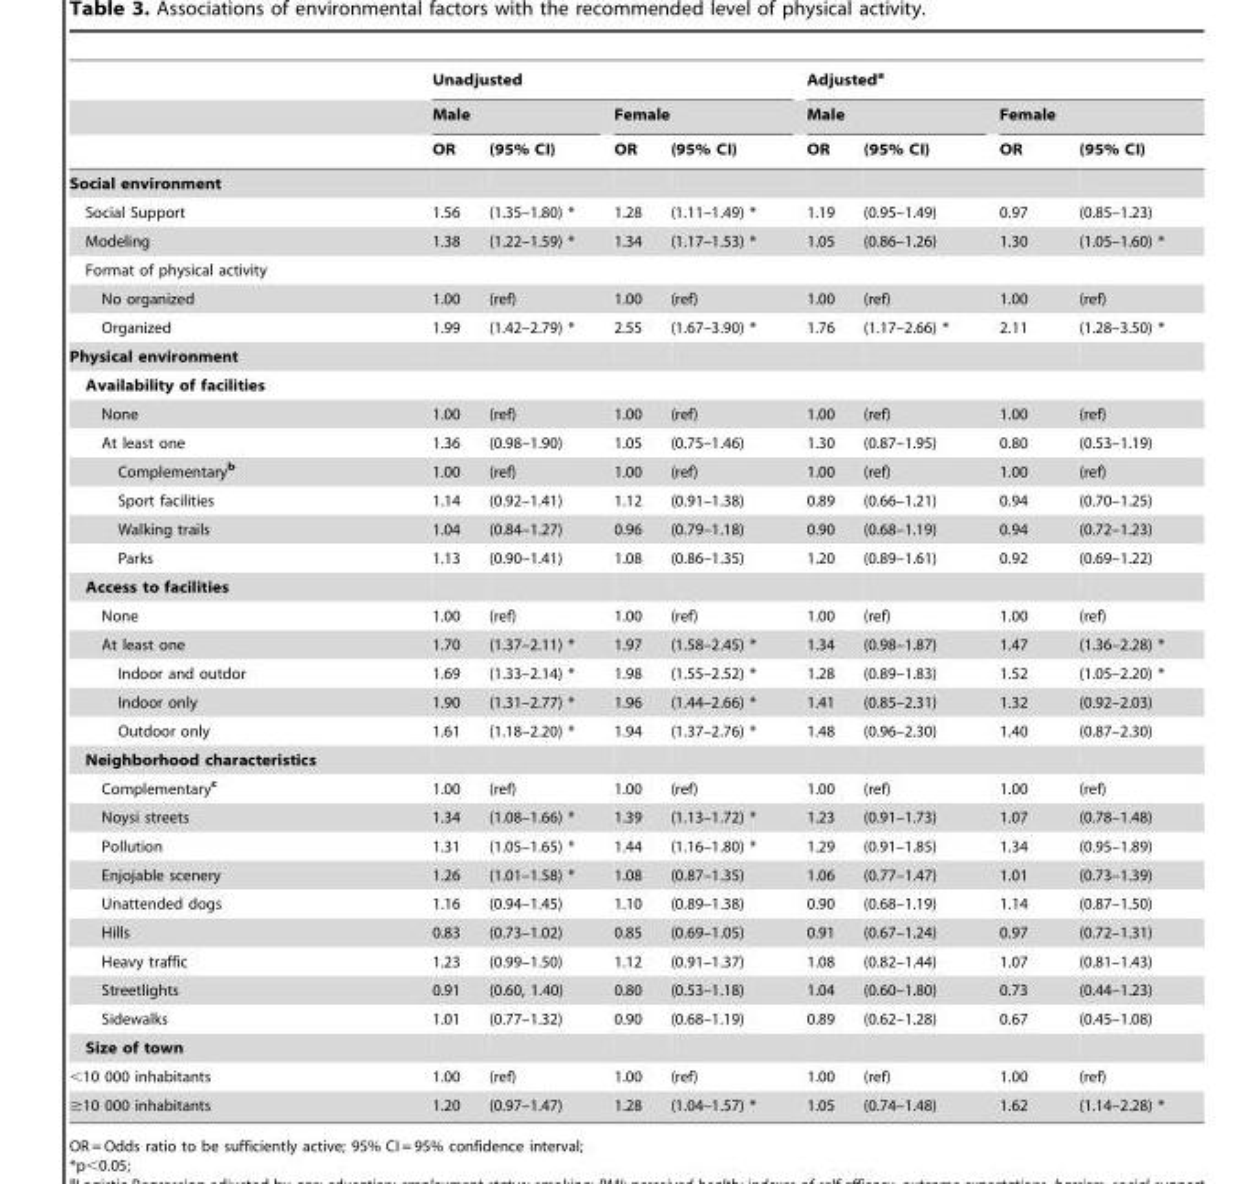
<table><thead><tr><td rowspan="3"></td><td colspan="4">Unadjusted</td><td colspan="4">Adjusted<sup>a</sup></td></tr><tr><td colspan="2">Male</td><td colspan="2">Female</td><td colspan="2">Male</td><td colspan="2">Female</td></tr><tr><td>OR</td><td>(95% CI)</td><td>OR</td><td>(95% CI)</td><td>OR</td><td>(95% CI)</td><td>OR</td><td>(95% CI)</td></tr></thead><tbody><tr><td colspan="9">Social environment</td></tr><tr><td>Social Support</td><td>1.56</td><td>(1.35–1.80) *</td><td>1.28</td><td>(1.11–1.49) *</td><td>1.19</td><td>(0.95–1.49)</td><td>0.97</td><td>(0.85–1.23)</td></tr><tr><td>Modeling</td><td>1.38</td><td>(1.22–1.59) *</td><td>1.34</td><td>(1.17–1.53) *</td><td>1.05</td><td>(0.86–1.26)</td><td>1.30</td><td>(1.05–1.60) *</td></tr><tr><td colspan="9">Format of physical activity</td></tr><tr><td>No organized</td><td>1.00</td><td>(ref)</td><td>1.00</td><td>(ref)</td><td>1.00</td><td>(ref)</td><td>1.00</td><td>(ref)</td></tr><tr><td>Organized</td><td>1.99</td><td>(1.42–2.79) *</td><td>2.55</td><td>(1.67–3.90) *</td><td>1.76</td><td>(1.17–2.66) *</td><td>2.11</td><td>(1.28–3.50) *</td></tr><tr><td colspan="9">Physical environment</td></tr><tr><td colspan="9">Availability of facilities</td></tr><tr><td>None</td><td>1.00</td><td>(ref)</td><td>1.00</td><td>(ref)</td><td>1.00</td><td>(ref)</td><td>1.00</td><td>(ref)</td></tr><tr><td>At least one</td><td>1.36</td><td>(0.98–1.90)</td><td>1.05</td><td>(0.75–1.46)</td><td>1.30</td><td>(0.87–1.95)</td><td>0.80</td><td>(0.53–1.19)</td></tr><tr><td>Complementary<sup>b</sup></td><td>1.00</td><td>(ref)</td><td>1.00</td><td>(ref)</td><td>1.00</td><td>(ref)</td><td>1.00</td><td>(ref)</td></tr><tr><td>Sport facilities</td><td>1.14</td><td>(0.92–1.41)</td><td>1.12</td><td>(0.91–1.38)</td><td>0.89</td><td>(0.66–1.21)</td><td>0.94</td><td>(0.70–1.25)</td></tr><tr><td>Walking trails</td><td>1.04</td><td>(0.84–1.27)</td><td>0.96</td><td>(0.79–1.18)</td><td>0.90</td><td>(0.68–1.19)</td><td>0.94</td><td>(0.72–1.23)</td></tr><tr><td>Parks</td><td>1.13</td><td>(0.90–1.41)</td><td>1.08</td><td>(0.86–1.35)</td><td>1.20</td><td>(0.89–1.61)</td><td>0.92</td><td>(0.69–1.22)</td></tr><tr><td colspan="9">Access to facilities</td></tr><tr><td>None</td><td>1.00</td><td>(ref)</td><td>1.00</td><td>(ref)</td><td>1.00</td><td>(ref)</td><td>1.00</td><td>(ref)</td></tr><tr><td>At least one</td><td>1.70</td><td>(1.37–2.11) *</td><td>1.97</td><td>(1.58–2.45) *</td><td>1.34</td><td>(0.98–1.87)</td><td>1.47</td><td>(1.36–2.28) *</td></tr><tr><td>Indoor and outdor</td><td>1.69</td><td>(1.33–2.14) *</td><td>1.98</td><td>(1.55–2.52) *</td><td>1.28</td><td>(0.89–1.83)</td><td>1.52</td><td>(1.05–2.20) *</td></tr><tr><td>Indoor only</td><td>1.90</td><td>(1.31–2.77) *</td><td>1.96</td><td>(1.44–2.66) *</td><td>1.41</td><td>(0.85–2.31)</td><td>1.32</td><td>(0.92–2.03)</td></tr><tr><td>Outdoor only</td><td>1.61</td><td>(1.18–2.20) *</td><td>1.94</td><td>(1.37–2.76) *</td><td>1.48</td><td>(0.96–2.30)</td><td>1.40</td><td>(0.87–2.30)</td></tr><tr><td colspan="9">Neighborhood characteristics</td></tr><tr><td>Complementary<sup>c</sup></td><td>1.00</td><td>(ref)</td><td>1.00</td><td>(ref)</td><td>1.00</td><td>(ref)</td><td>1.00</td><td>(ref)</td></tr><tr><td>Noysi streets</td><td>1.34</td><td>(1.08–1.66) *</td><td>1.39</td><td>(1.13–1.72) *</td><td>1.23</td><td>(0.91–1.73)</td><td>1.07</td><td>(0.78–1.48)</td></tr><tr><td>Pollution</td><td>1.31</td><td>(1.05–1.65) *</td><td>1.44</td><td>(1.16–1.80) *</td><td>1.29</td><td>(0.91–1.85)</td><td>1.34</td><td>(0.95–1.89)</td></tr><tr><td>Enjojable scenery</td><td>1.26</td><td>(1.01–1.58) *</td><td>1.08</td><td>(0.87–1.35)</td><td>1.06</td><td>(0.77–1.47)</td><td>1.01</td><td>(0.73–1.39)</td></tr><tr><td>Unattended dogs</td><td>1.16</td><td>(0.94–1.45)</td><td>1.10</td><td>(0.89–1.38)</td><td>0.90</td><td>(0.68–1.19)</td><td>1.14</td><td>(0.87–1.50)</td></tr><tr><td>Hills</td><td>0.83</td><td>(0.73–1.02)</td><td>0.85</td><td>(0.69–1.05)</td><td>0.91</td><td>(0.67–1.24)</td><td>0.97</td><td>(0.72–1.31)</td></tr><tr><td>Heavy traffic</td><td>1.23</td><td>(0.99–1.50)</td><td>1.12</td><td>(0.91–1.37)</td><td>1.08</td><td>(0.82–1.44)</td><td>1.07</td><td>(0.81–1.43)</td></tr><tr><td>Streetlights</td><td>0.91</td><td>(0.60, 1.40)</td><td>0.80</td><td>(0.53–1.18)</td><td>1.04</td><td>(0.60–1.80)</td><td>0.73</td><td>(0.44–1.23)</td></tr><tr><td>Sidewalks</td><td>1.01</td><td>(0.77–1.32)</td><td>0.90</td><td>(0.68–1.19)</td><td>0.89</td><td>(0.62–1.28)</td><td>0.67</td><td>(0.45–1.08)</td></tr><tr><td colspan="9">Size of town</td></tr><tr><td>&lt;10 000 inhabitants</td><td>1.00</td><td>(ref)</td><td>1.00</td><td>(ref)</td><td>1.00</td><td>(ref)</td><td>1.00</td><td>(ref)</td></tr><tr><td>≥10 000 inhabitants</td><td>1.20</td><td>(0.97–1.47)</td><td>1.28</td><td>(1.04–1.57) *</td><td>1.05</td><td>(0.74–1.48)</td><td>1.62</td><td>(1.14–2.28) *</td></tr></tbody></table>